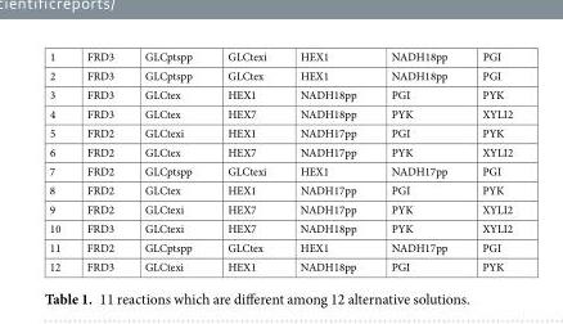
<table><tbody><tr><td>1</td><td>FRD3</td><td>GLCptspp</td><td>GLCtexi</td><td>HEX1</td><td>NADH18pp</td><td>PGI</td></tr><tr><td>2</td><td>FRD3</td><td>GLCptspp</td><td>GLCtex</td><td>HEX1</td><td>NADH18pp</td><td>PGI</td></tr><tr><td>3</td><td>FRD3</td><td>GLCtex</td><td>HEX1</td><td>NADH18pp</td><td>PGI</td><td>PYK</td></tr><tr><td>4</td><td>FRD3</td><td>GLCtex</td><td>HEX7</td><td>NADH18pp</td><td>PYK</td><td>XYLI2</td></tr><tr><td>5</td><td>FRD2</td><td>GLCtexi</td><td>HEX1</td><td>NADH17pp</td><td>PGI</td><td>PYK</td></tr><tr><td>6</td><td>FRD2</td><td>GLCtex</td><td>HEX7</td><td>NADH17pp</td><td>PYK</td><td>XYLI2</td></tr><tr><td>7</td><td>FRD2</td><td>GLCptspp</td><td>GLCtexi</td><td>HEX1</td><td>NADH17pp</td><td>PGI</td></tr><tr><td>8</td><td>FRD2</td><td>GLCtex</td><td>HEX1</td><td>NADH17pp</td><td>PGI</td><td>PYK</td></tr><tr><td>9</td><td>FRD2</td><td>GLCtexi</td><td>HEX7</td><td>NADH17pp</td><td>PYK</td><td>XYLI2</td></tr><tr><td>10</td><td>FRD3</td><td>GLCtexi</td><td>HEX7</td><td>NADH18pp</td><td>PYK</td><td>XYLI2</td></tr><tr><td>11</td><td>FRD2</td><td>GLCptspp</td><td>GLCtex</td><td>HEX1</td><td>NADH17pp</td><td>PGI</td></tr><tr><td>12</td><td>FRD3</td><td>GLCtexi</td><td>HEX1</td><td>NADH18pp</td><td>PGI</td><td>PYK</td></tr></tbody></table>